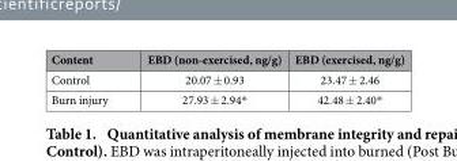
<table><thead><tr><td>Content</td><td>EBD (non-exercised, ng/g)</td><td>EBD (exercised, ng/g)</td></tr></thead><tbody><tr><td>Control</td><td>20.07 ± 0.93</td><td>23.47 ± 2.46</td></tr><tr><td>Burn injury</td><td>27.93 ± 2.94*</td><td>42.48 ± 2.40*</td></tr></tbody></table>